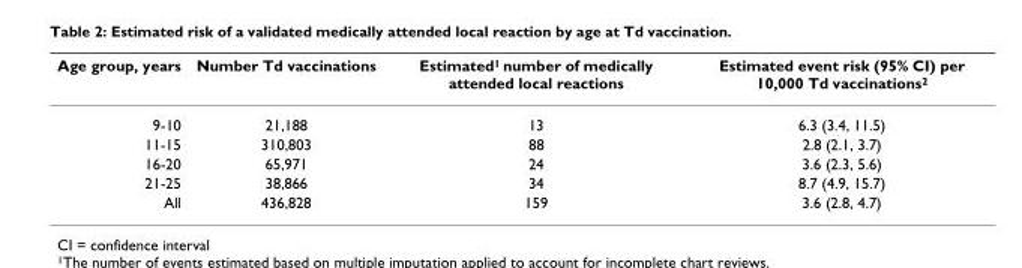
<table><thead><tr><td>Age group, years</td><td>Number Td vaccinations</td><td>Estimated<sup>1</sup> number of medically attended local reactions</td><td>Estimated event risk (95% CI) per 10,000 Td vaccinations<sup>2</sup></td></tr></thead><tbody><tr><td>9-10</td><td>21,188</td><td>13</td><td>6.3 (3.4, 11.5)</td></tr><tr><td>11-15</td><td>310,803</td><td>88</td><td>2.8 (2.1, 3.7)</td></tr><tr><td>16-20</td><td>65,971</td><td>24</td><td>3.6 (2.3, 5.6)</td></tr><tr><td>21-25</td><td>38,866</td><td>34</td><td>8.7 (4.9, 15.7)</td></tr><tr><td>All</td><td>436,828</td><td>159</td><td>3.6 (2.8, 4.7)</td></tr></tbody></table>